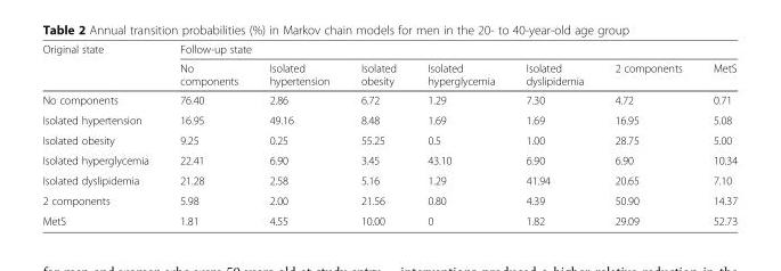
<table><thead><tr><td rowspan="2">Original state</td><td colspan="7">Follow-up state</td></tr><tr><td>No components</td><td>Isolated hypertension</td><td>Isolated obesity</td><td>Isolated hyperglycemia</td><td>Isolated dyslipidemia</td><td>2 components</td><td>MetS</td></tr></thead><tbody><tr><td>No components</td><td>76.40</td><td>2.86</td><td>6.72</td><td>1.29</td><td>7.30</td><td>4.72</td><td>0.71</td></tr><tr><td>Isolated hypertension</td><td>16.95</td><td>49.16</td><td>8.48</td><td>1.69</td><td>1.69</td><td>16.95</td><td>5.08</td></tr><tr><td>Isolated obesity</td><td>9.25</td><td>0.25</td><td>55.25</td><td>0.5</td><td>1.00</td><td>28.75</td><td>5.00</td></tr><tr><td>Isolated hyperglycemia</td><td>22.41</td><td>6.90</td><td>3.45</td><td>43.10</td><td>6.90</td><td>6.90</td><td>10.34</td></tr><tr><td>Isolated dyslipidemia</td><td>21.28</td><td>2.58</td><td>5.16</td><td>1.29</td><td>41.94</td><td>20.65</td><td>7.10</td></tr><tr><td>2 components</td><td>5.98</td><td>2.00</td><td>21.56</td><td>0.80</td><td>4.39</td><td>50.90</td><td>14.37</td></tr><tr><td>MetS</td><td>1.81</td><td>4.55</td><td>10.00</td><td>0</td><td>1.82</td><td>29.09</td><td>52.73</td></tr></tbody></table>